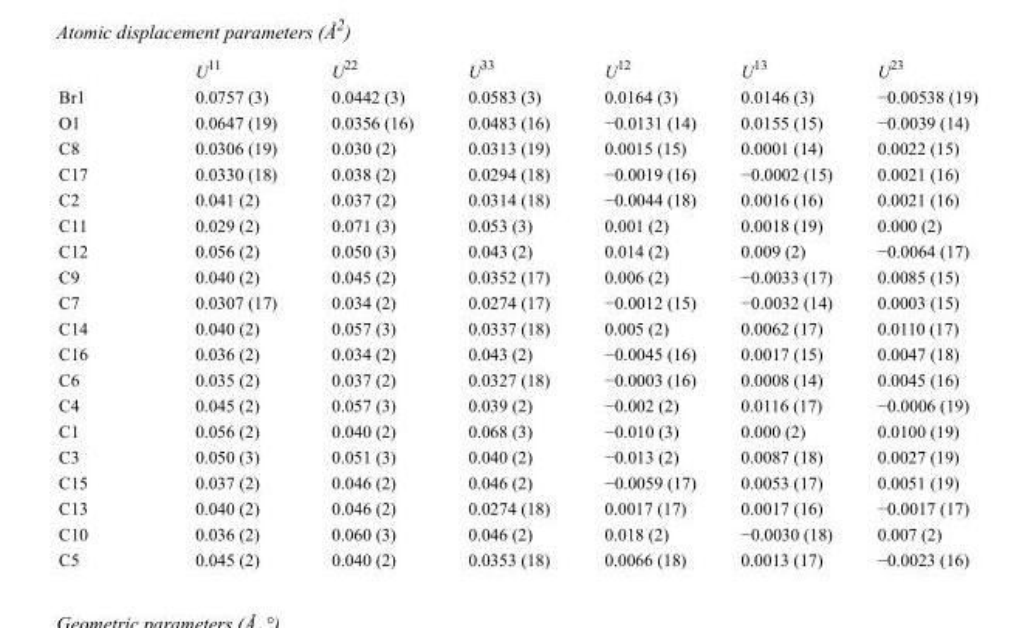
<table><thead><tr><td></td><td>U<sup>11</sup></td><td>U<sup>22</sup></td><td>U<sup>33</sup></td><td>U<sup>12</sup></td><td>U<sup>13</sup></td><td>U<sup>23</sup></td></tr></thead><tbody><tr><td>Br1</td><td>0.0757 (3)</td><td>0.0442 (3)</td><td>0.0583 (3)</td><td>0.0164 (3)</td><td>0.0146 (3)</td><td>−0.00538 (19)</td></tr><tr><td>O1</td><td>0.0647 (19)</td><td>0.0356 (16)</td><td>0.0483 (16)</td><td>−0.0131 (14)</td><td>0.0155 (15)</td><td>−0.0039 (14)</td></tr><tr><td>C8</td><td>0.0306 (19)</td><td>0.030 (2)</td><td>0.0313 (19)</td><td>0.0015 (15)</td><td>0.0001 (14)</td><td>0.0022 (15)</td></tr><tr><td>C17</td><td>0.0330 (18)</td><td>0.038 (2)</td><td>0.0294 (18)</td><td>−0.0019 (16)</td><td>−0.0002 (15)</td><td>0.0021 (16)</td></tr><tr><td>C2</td><td>0.041 (2)</td><td>0.037 (2)</td><td>0.0314 (18)</td><td>−0.0044 (18)</td><td>0.0016 (16)</td><td>0.0021 (16)</td></tr><tr><td>C11</td><td>0.029 (2)</td><td>0.071 (3)</td><td>0.053 (3)</td><td>0.001 (2)</td><td>0.0018 (19)</td><td>0.000 (2)</td></tr><tr><td>C12</td><td>0.056 (2)</td><td>0.050 (3)</td><td>0.043 (2)</td><td>0.014 (2)</td><td>0.009 (2)</td><td>−0.0064 (17)</td></tr><tr><td>C9</td><td>0.040 (2)</td><td>0.045 (2)</td><td>0.0352 (17)</td><td>0.006 (2)</td><td>−0.0033 (17)</td><td>0.0085 (15)</td></tr><tr><td>C7</td><td>0.0307 (17)</td><td>0.034 (2)</td><td>0.0274 (17)</td><td>−0.0012 (15)</td><td>−0.0032 (14)</td><td>0.0003 (15)</td></tr><tr><td>C14</td><td>0.040 (2)</td><td>0.057 (3)</td><td>0.0337 (18)</td><td>0.005 (2)</td><td>0.0062 (17)</td><td>0.0110 (17)</td></tr><tr><td>C16</td><td>0.036 (2)</td><td>0.034 (2)</td><td>0.043 (2)</td><td>−0.0045 (16)</td><td>0.0017 (15)</td><td>0.0047 (18)</td></tr><tr><td>C6</td><td>0.035 (2)</td><td>0.037 (2)</td><td>0.0327 (18)</td><td>−0.0003 (16)</td><td>0.0008 (14)</td><td>0.0045 (16)</td></tr><tr><td>C4</td><td>0.045 (2)</td><td>0.057 (3)</td><td>0.039 (2)</td><td>−0.002 (2)</td><td>0.0116 (17)</td><td>−0.0006 (19)</td></tr><tr><td>C1</td><td>0.056 (2)</td><td>0.040 (2)</td><td>0.068 (3)</td><td>−0.010 (3)</td><td>0.000 (2)</td><td>0.0100 (19)</td></tr><tr><td>C3</td><td>0.050 (3)</td><td>0.051 (3)</td><td>0.040 (2)</td><td>−0.013 (2)</td><td>0.0087 (18)</td><td>0.0027 (19)</td></tr><tr><td>C15</td><td>0.037 (2)</td><td>0.046 (2)</td><td>0.046 (2)</td><td>−0.0059 (17)</td><td>0.0053 (17)</td><td>0.0051 (19)</td></tr><tr><td>C13</td><td>0.040 (2)</td><td>0.046 (2)</td><td>0.0274 (18)</td><td>0.0017 (17)</td><td>0.0017 (16)</td><td>−0.0017 (17)</td></tr><tr><td>C10</td><td>0.036 (2)</td><td>0.060 (3)</td><td>0.046 (2)</td><td>0.018 (2)</td><td>−0.0030 (18)</td><td>0.007 (2)</td></tr><tr><td>C5</td><td>0.045 (2)</td><td>0.040 (2)</td><td>0.0353 (18)</td><td>0.0066 (18)</td><td>0.0013 (17)</td><td>−0.0023 (16)</td></tr></tbody></table>